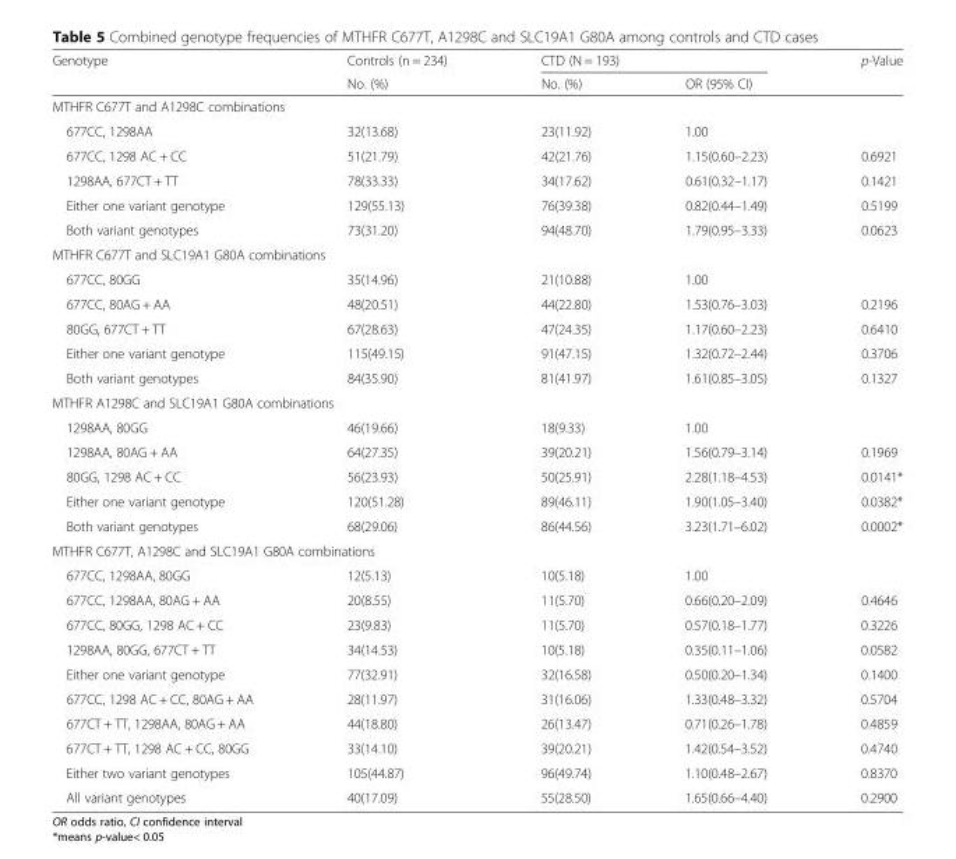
<table><thead><tr><td rowspan="2">Genotype</td><td rowspan="2">Controls (n = 234) No. (%)</td><td colspan="2">CTD (N = 193)</td><td rowspan="2">p-Value</td></tr><tr><td>No. (%)</td><td>OR (95% CI)</td></tr></thead><tbody><tr><td colspan="5">MTHFR C677T and A1298C combinations</td></tr><tr><td>677CC, 1298AA</td><td>32(13.68)</td><td>23(11.92)</td><td>1.00</td><td></td></tr><tr><td>677CC, 1298 AC + CC</td><td>51(21.79)</td><td>42(21.76)</td><td>1.15(0.60–2.23)</td><td>0.6921</td></tr><tr><td>1298AA, 677CT + TT</td><td>78(33.33)</td><td>34(17.62)</td><td>0.61(0.32–1.17)</td><td>0.1421</td></tr><tr><td>Either one variant genotype</td><td>129(55.13)</td><td>76(39.38)</td><td>0.82(0.44–1.49)</td><td>0.5199</td></tr><tr><td>Both variant genotypes</td><td>73(31.20)</td><td>94(48.70)</td><td>1.79(0.95–3.33)</td><td>0.0623</td></tr><tr><td colspan="5">MTHFR C677T and SLC19A1 G80A combinations</td></tr><tr><td>677CC, 80GG</td><td>35(14.96)</td><td>21(10.88)</td><td>1.00</td><td></td></tr><tr><td>677CC, 80AG + AA</td><td>48(20.51)</td><td>44(22.80)</td><td>1.53(0.76–3.03)</td><td>0.2196</td></tr><tr><td>80GG, 677CT + TT</td><td>67(28.63)</td><td>47(24.35)</td><td>1.17(0.60–2.23)</td><td>0.6410</td></tr><tr><td>Either one variant genotype</td><td>115(49.15)</td><td>91(47.15)</td><td>1.32(0.72–2.44)</td><td>0.3706</td></tr><tr><td>Both variant genotypes</td><td>84(35.90)</td><td>81(41.97)</td><td>1.61(0.85–3.05)</td><td>0.1327</td></tr><tr><td colspan="5">MTHFR A1298C and SLC19A1 G80A combinations</td></tr><tr><td>1298AA, 80GG</td><td>46(19.66)</td><td>18(9.33)</td><td>1.00</td><td></td></tr><tr><td>1298AA, 80AG + AA</td><td>64(27.35)</td><td>39(20.21)</td><td>1.56(0.79–3.14)</td><td>0.1969</td></tr><tr><td>80GG, 1298 AC + CC</td><td>56(23.93)</td><td>50(25.91)</td><td>2.28(1.18–4.53)</td><td>0.0141*</td></tr><tr><td>Either one variant genotype</td><td>120(51.28)</td><td>89(46.11)</td><td>1.90(1.05–3.40)</td><td>0.0382*</td></tr><tr><td>Both variant genotypes</td><td>68(29.06)</td><td>86(44.56)</td><td>3.23(1.71–6.02)</td><td>0.0002*</td></tr><tr><td colspan="5">MTHFR C677T, A1298C and SLC19A1 G80A combinations</td></tr><tr><td>677CC, 1298AA, 80GG</td><td>12(5.13)</td><td>10(5.18)</td><td>1.00</td><td></td></tr><tr><td>677CC, 1298AA, 80AG + AA</td><td>20(8.55)</td><td>11(5.70)</td><td>0.66(0.20–2.09)</td><td>0.4646</td></tr><tr><td>677CC, 80GG, 1298 AC + CC</td><td>23(9.83)</td><td>11(5.70)</td><td>0.57(0.18–1.77)</td><td>0.3226</td></tr><tr><td>1298AA, 80GG, 677CT + TT</td><td>34(14.53)</td><td>10(5.18)</td><td>0.35(0.11–1.06)</td><td>0.0582</td></tr><tr><td>Either one variant genotype</td><td>77(32.91)</td><td>32(16.58)</td><td>0.50(0.20–1.34)</td><td>0.1400</td></tr><tr><td>677CC, 1298 AC + CC, 80AG + AA</td><td>28(11.97)</td><td>31(16.06)</td><td>1.33(0.48–3.32)</td><td>0.5704</td></tr><tr><td>677CT + TT, 1298AA, 80AG + AA</td><td>44(18.80)</td><td>26(13.47)</td><td>0.71(0.26–1.78)</td><td>0.4859</td></tr><tr><td>677CT + TT, 1298 AC + CC, 80GG</td><td>33(14.10)</td><td>39(20.21)</td><td>1.42(0.54–3.52)</td><td>0.4740</td></tr><tr><td>Either two variant genotypes</td><td>105(44.87)</td><td>96(49.74)</td><td>1.10(0.48–2.67)</td><td>0.8370</td></tr><tr><td>All variant genotypes</td><td>40(17.09)</td><td>55(28.50)</td><td>1.65(0.66–4.40)</td><td>0.2900</td></tr></tbody></table>